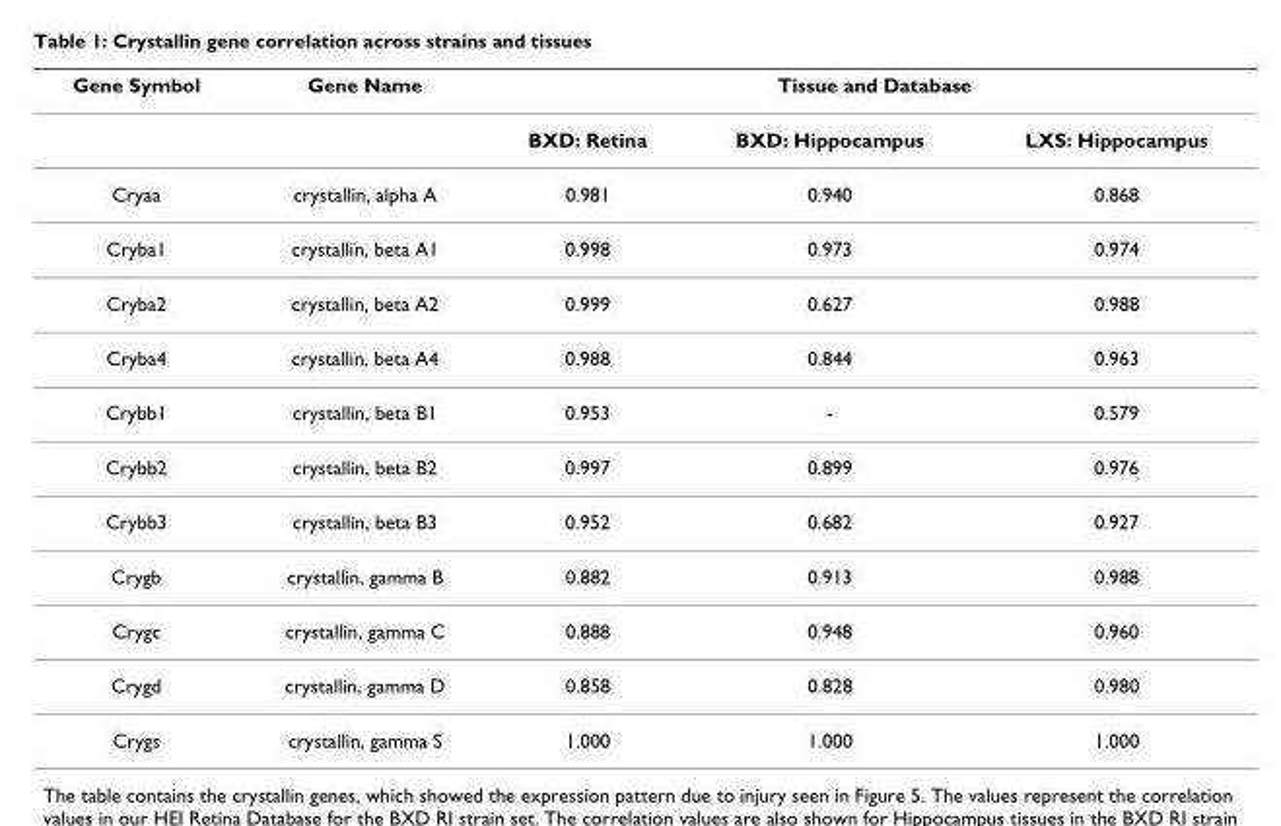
<table><thead><tr><td rowspan="2">Gene Symbol</td><td rowspan="2">Gene Name</td><td colspan="3">Tissue and Database</td></tr><tr><td>BXD: Retina</td><td>BXD: Hippocampus</td><td>LXS: Hippocampus</td></tr></thead><tbody><tr><td>Cryaa</td><td>crystallin, alpha A</td><td>0.981</td><td>0.940</td><td>0.868</td></tr><tr><td>Cryba1</td><td>crystallin, beta A1</td><td>0.998</td><td>0.973</td><td>0.974</td></tr><tr><td>Cryba2</td><td>crystallin, beta A2</td><td>0.999</td><td>0.627</td><td>0.988</td></tr><tr><td>Cryba4</td><td>crystallin, beta A4</td><td>0.988</td><td>0.844</td><td>0.963</td></tr><tr><td>Crybb1</td><td>crystallin, beta B1</td><td>0.953</td><td>-</td><td>0.579</td></tr><tr><td>Crybb2</td><td>crystallin, beta B2</td><td>0.997</td><td>0.899</td><td>0.976</td></tr><tr><td>Crybb3</td><td>crystallin, beta B3</td><td>0.952</td><td>0.682</td><td>0.927</td></tr><tr><td>Crygb</td><td>crystallin, gamma B</td><td>0.882</td><td>0.913</td><td>0.988</td></tr><tr><td>Crygc</td><td>crystallin, gamma C</td><td>0.888</td><td>0.948</td><td>0.960</td></tr><tr><td>Crygd</td><td>crystallin, gamma D</td><td>0.858</td><td>0.828</td><td>0.980</td></tr><tr><td>Crygs</td><td>crystallin, gamma S</td><td>1.000</td><td>1.000</td><td>1.000</td></tr></tbody></table>